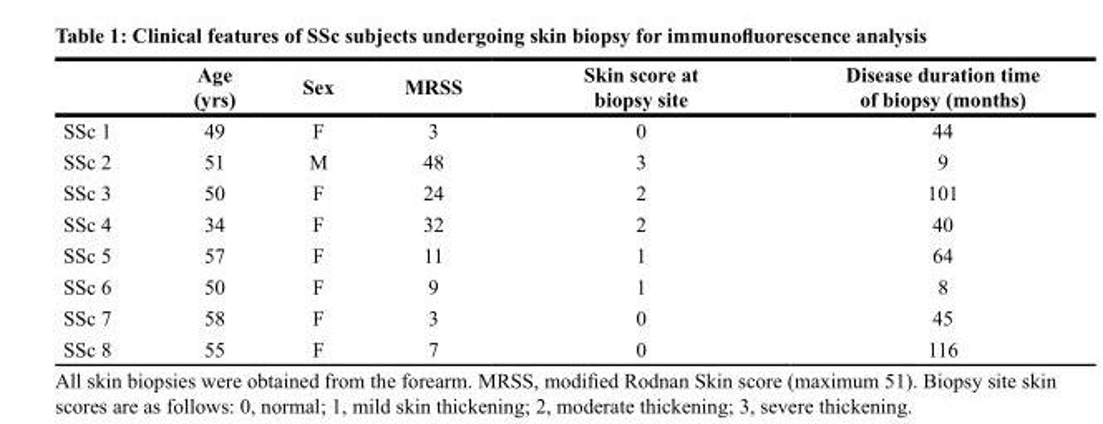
<table><thead><tr><td></td><td>Age (yrs)</td><td>Sex</td><td>MRSS</td><td>Skin score at biopsy site</td><td>Disease duration time of biopsy (months)</td></tr></thead><tbody><tr><td>SSc 1</td><td>49</td><td>F</td><td>3</td><td>0</td><td>44</td></tr><tr><td>SSc 2</td><td>51</td><td>M</td><td>48</td><td>3</td><td>9</td></tr><tr><td>SSc 3</td><td>50</td><td>F</td><td>24</td><td>2</td><td>101</td></tr><tr><td>SSc 4</td><td>34</td><td>F</td><td>32</td><td>2</td><td>40</td></tr><tr><td>SSc 5</td><td>57</td><td>F</td><td>11</td><td>1</td><td>64</td></tr><tr><td>SSc 6</td><td>50</td><td>F</td><td>9</td><td>1</td><td>8</td></tr><tr><td>SSc 7</td><td>58</td><td>F</td><td>3</td><td>0</td><td>45</td></tr><tr><td>SSc 8</td><td>55</td><td>F</td><td>7</td><td>0</td><td>116</td></tr></tbody></table>